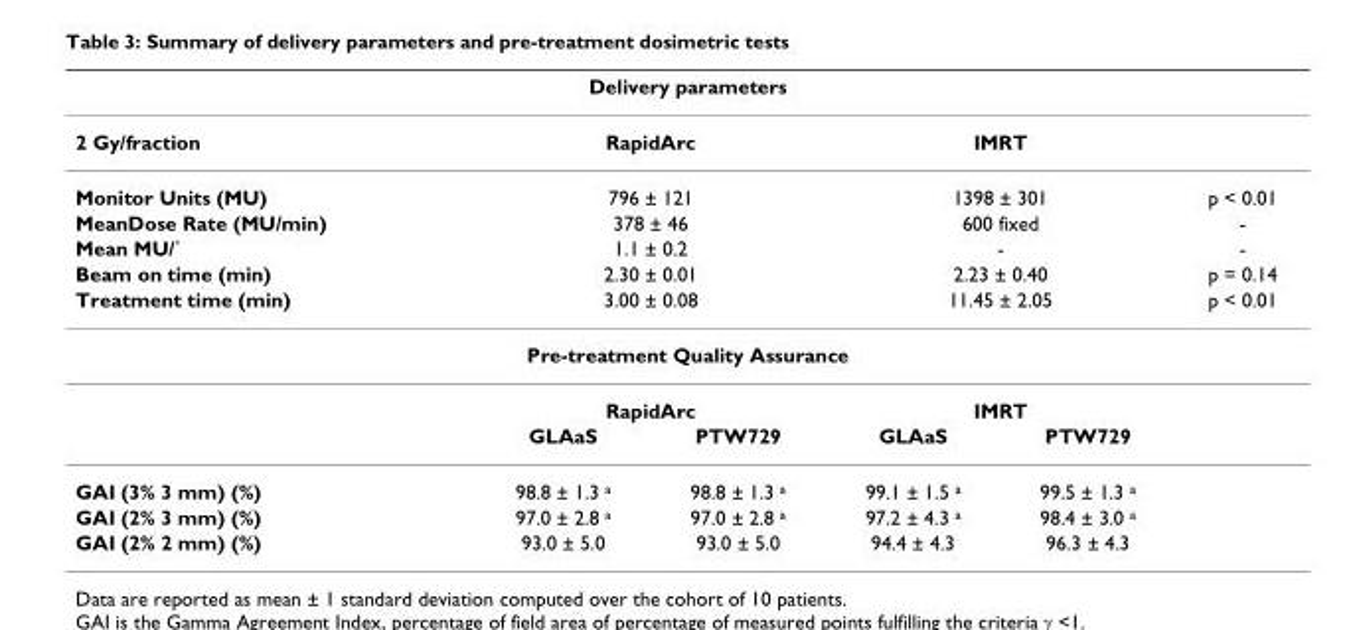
<table><thead><tr><td colspan="6">Delivery parameters</td></tr></thead><tbody><tr><td>2 Gy/fraction</td><td colspan="2">RapidArc</td><td colspan="2">IMRT</td><td></td></tr><tr><td>Monitor Units (MU)</td><td colspan="2">796 ± 121</td><td colspan="2">1398 ± 301</td><td>p &lt; 0.01</td></tr><tr><td>MeanDose Rate (MU/min)</td><td colspan="2">378 ± 46</td><td colspan="2">600 fixed</td><td>-</td></tr><tr><td>Mean MU/<sup>°</sup></td><td colspan="2">1.1 ± 0.2</td><td colspan="2">-</td><td>-</td></tr><tr><td>Beam on time (min)</td><td colspan="2">2.30 ± 0.01</td><td colspan="2">2.23 ± 0.40</td><td>p = 0.14</td></tr><tr><td>Treatment time (min)</td><td colspan="2">3.00 ± 0.08</td><td colspan="2">11.45 ± 2.05</td><td>p &lt; 0.01</td></tr><tr><td colspan="6">Pre-treatment Quality Assurance</td></tr><tr><td></td><td colspan="2">RapidArc</td><td colspan="2">IMRT</td><td></td></tr><tr><td></td><td>GLAaS</td><td>PTW729</td><td>GLAaS</td><td>PTW729</td><td></td></tr><tr><td>GAI (3% 3 mm) (%)</td><td>98.8 ± 1.3 <sup>a</sup></td><td>98.8 ± 1.3 <sup>a</sup></td><td>99.1 ± 1.5 <sup>a</sup></td><td>99.5 ± 1.3 <sup>a</sup></td><td></td></tr><tr><td>GAI (2% 3 mm) (%)</td><td>97.0 ± 2.8 <sup>a</sup></td><td>97.0 ± 2.8 <sup>a</sup></td><td>97.2 ± 4.3 <sup>a</sup></td><td>98.4 ± 3.0 <sup>a</sup></td><td></td></tr><tr><td>GAI (2% 2 mm) (%)</td><td>93.0 ± 5.0</td><td>93.0 ± 5.0</td><td>94.4 ± 4.3</td><td>96.3 ± 4.3</td><td></td></tr></tbody></table>